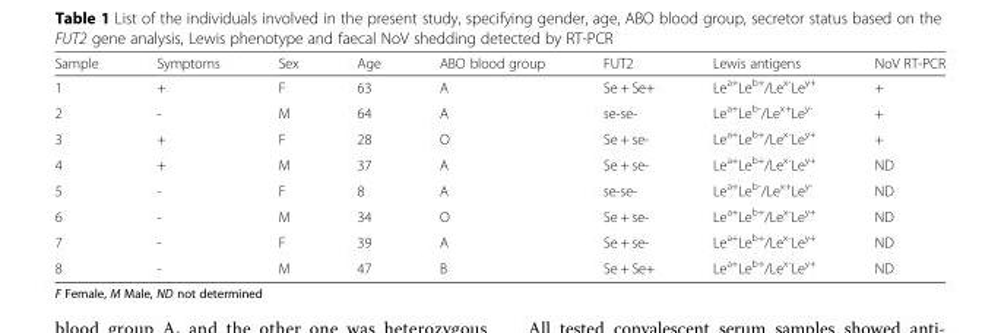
<table><thead><tr><td>Sample</td><td>Symptoms</td><td>Sex</td><td>Age</td><td>ABO blood group</td><td>FUT2</td><td>Lewis antigens</td><td>NoV RT-PCR</td></tr></thead><tbody><tr><td>1</td><td>+</td><td>F</td><td>63</td><td>A</td><td>Se + Se+</td><td>Le<sup>a+</sup>Le<sup>b+</sup>/Le<sup>x-</sup>Le<sup>y+</sup></td><td>+</td></tr><tr><td>2</td><td>-</td><td>M</td><td>64</td><td>A</td><td>se-se-</td><td>Le<sup>a+</sup>Le<sup>b-</sup>/Le<sup>x+</sup>Le<sup>y-</sup></td><td>+</td></tr><tr><td>3</td><td>+</td><td>F</td><td>28</td><td>O</td><td>Se + se-</td><td>Le<sup>a+</sup>Le<sup>b+</sup>/Le<sup>x-</sup>Le<sup>y+</sup></td><td>+</td></tr><tr><td>4</td><td>+</td><td>M</td><td>37</td><td>A</td><td>Se + se-</td><td>Le<sup>a+</sup>Le<sup>b+</sup>/Le<sup>x-</sup>Le<sup>y+</sup></td><td>ND</td></tr><tr><td>5</td><td>-</td><td>F</td><td>8</td><td>A</td><td>se-se-</td><td>Le<sup>a+</sup>Le<sup>b-</sup>/Le<sup>x+</sup>Le<sup>y-</sup></td><td>ND</td></tr><tr><td>6</td><td>-</td><td>M</td><td>34</td><td>O</td><td>Se + se-</td><td>Le<sup>a+</sup>Le<sup>b+</sup>/Le<sup>x-</sup>Le<sup>y+</sup></td><td>ND</td></tr><tr><td>7</td><td>-</td><td>F</td><td>39</td><td>A</td><td>Se + se-</td><td>Le<sup>a+</sup>Le<sup>b+</sup>/Le<sup>x-</sup>Le<sup>y+</sup></td><td>ND</td></tr><tr><td>8</td><td>-</td><td>M</td><td>47</td><td>B</td><td>Se + Se+</td><td>Le<sup>a+</sup>Le<sup>b+</sup>/Le<sup>x-</sup>Le<sup>y+</sup></td><td>ND</td></tr></tbody></table>